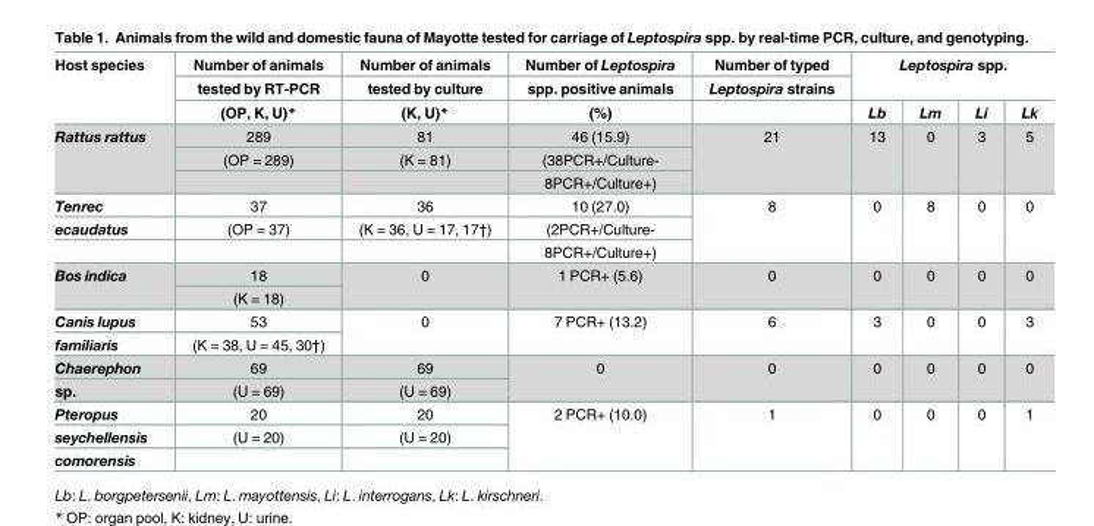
<table><thead><tr><td rowspan="3">Host species</td><td rowspan="3">Number of animals tested by RT-PCR (OP, K, U)*</td><td rowspan="3">Number of animals tested by culture (K, U)*</td><td rowspan="3">Number of Leptospira spp. positive animals (%)</td><td rowspan="3">Number of typed Leptospira strains</td><td rowspan="2" colspan="4">Leptospira spp.</td></tr><tr></tr><tr><td>Lb</td><td>Lm</td><td>Li</td><td>Lk</td></tr></thead><tbody><tr><td rowspan="3">Rattus rattus</td><td>289</td><td>81</td><td>46 (15.9)</td><td rowspan="3">21</td><td rowspan="3">13</td><td rowspan="3">0</td><td rowspan="3">3</td><td rowspan="3">5</td></tr><tr><td>(OP = 289)</td><td>(K = 81)</td><td>(38PCR+/Culture-</td></tr><tr><td></td><td></td><td>8PCR+/Culture+)</td></tr><tr><td>Tenrec</td><td>37</td><td>36</td><td>10 (27.0)</td><td rowspan="3">8</td><td rowspan="3">0</td><td rowspan="3">8</td><td rowspan="3">0</td><td rowspan="3">0</td></tr><tr><td rowspan="2">ecaudatus</td><td>(OP = 37)</td><td>(K = 36, U = 17, 17†)</td><td>(2PCR+/Culture-</td></tr><tr><td></td><td></td><td>8PCR+/Culture+)</td></tr><tr><td rowspan="2">Bos indica</td><td>18</td><td rowspan="2">0</td><td rowspan="2">1 PCR+ (5.6)</td><td rowspan="2">0</td><td rowspan="2">0</td><td rowspan="2">0</td><td rowspan="2">0</td><td rowspan="2">0</td></tr><tr><td>(K = 18)</td></tr><tr><td>Canis lupus</td><td>53</td><td rowspan="2">0</td><td rowspan="2">7 PCR+ (13.2)</td><td rowspan="2">6</td><td rowspan="2">3</td><td rowspan="2">0</td><td rowspan="2">0</td><td rowspan="2">3</td></tr><tr><td>familiaris</td><td>(K = 38, U = 45, 30†)</td></tr><tr><td>Chaerephon</td><td>69</td><td>69</td><td rowspan="2">0</td><td rowspan="2">0</td><td rowspan="2">0</td><td rowspan="2">0</td><td rowspan="2">0</td><td rowspan="2">0</td></tr><tr><td>sp.</td><td>(U = 69)</td><td>(U = 69)</td></tr><tr><td>Pteropus</td><td>20</td><td>20</td><td rowspan="3">2 PCR+ (10.0)</td><td rowspan="3">1</td><td rowspan="3">0</td><td rowspan="3">0</td><td rowspan="3">0</td><td rowspan="3">1</td></tr><tr><td>seychellensis</td><td>(U = 20)</td><td>(U = 20)</td></tr><tr><td>comorensis</td><td></td><td></td></tr></tbody></table>